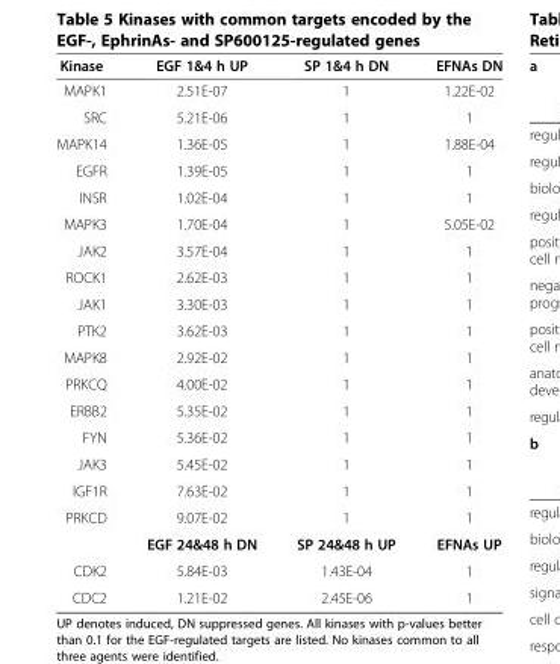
<table><thead><tr><td>Kinase</td><td>EGF 1&amp;4 h UP</td><td>SP 1&amp;4 h DN</td><td>EFNAs DN</td></tr></thead><tbody><tr><td>MAPK1</td><td>2.51E-07</td><td>1</td><td>1.22E-02</td></tr><tr><td>SRC</td><td>5.21E-06</td><td>1</td><td>1</td></tr><tr><td>MAPK14</td><td>1.36E-05</td><td>1</td><td>1.88E-04</td></tr><tr><td>EGFR</td><td>1.39E-05</td><td>1</td><td>1</td></tr><tr><td>INSR</td><td>1.02E-04</td><td>1</td><td>1</td></tr><tr><td>MAPK3</td><td>1.70E-04</td><td>1</td><td>5.05E-02</td></tr><tr><td>JAK2</td><td>3.57E-04</td><td>1</td><td>1</td></tr><tr><td>ROCK1</td><td>2.62E-03</td><td>1</td><td>1</td></tr><tr><td>JAK1</td><td>3.30E-03</td><td>1</td><td>1</td></tr><tr><td>PTK2</td><td>3.62E-03</td><td>1</td><td>1</td></tr><tr><td>MAPK8</td><td>2.92E-02</td><td>1</td><td>1</td></tr><tr><td>PRKCQ</td><td>4.00E-02</td><td>1</td><td>1</td></tr><tr><td>ERBB2</td><td>5.35E-02</td><td>1</td><td>1</td></tr><tr><td>FYN</td><td>5.36E-02</td><td>1</td><td>1</td></tr><tr><td>JAK3</td><td>5.45E-02</td><td>1</td><td>1</td></tr><tr><td>IGF1R</td><td>7.63E-02</td><td>1</td><td>1</td></tr><tr><td rowspan="2">PRKCD</td><td>9.07E-02</td><td>1</td><td>1</td></tr><tr><td>EGF 24&amp;48 h DN</td><td>SP 24&amp;48 h UP</td><td>EFNAs UP</td></tr><tr><td>CDK2</td><td>5.84E-03</td><td>1.43E-04</td><td>1</td></tr><tr><td>CDC2</td><td>1.21E-02</td><td>2.45E-06</td><td>1</td></tr></tbody></table>